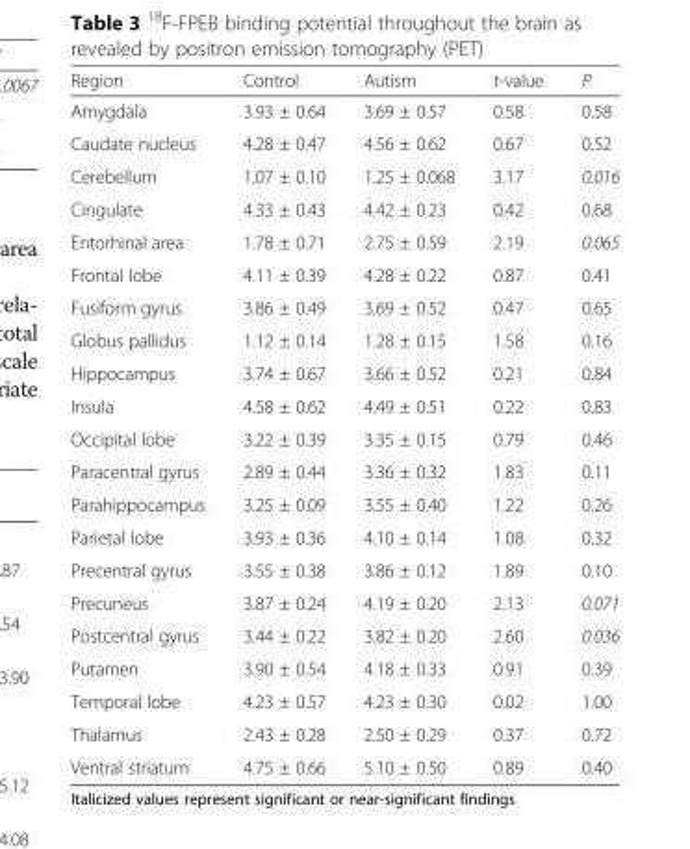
<table><thead><tr><td>Region</td><td>Control</td><td>Autism</td><td>t-value</td><td>P</td></tr></thead><tbody><tr><td>Amygdala</td><td>3.93 ± 0.64</td><td>3.69 ± 0.57</td><td>0.58</td><td>0.58</td></tr><tr><td>Caudate nucleus</td><td>4.28 ± 0.47</td><td>4.56 ± 0.62</td><td>0.67</td><td>0.52</td></tr><tr><td>Cerebellum</td><td>1.07 ± 0.10</td><td>1.25 ± 0.068</td><td>3.17</td><td>0.016</td></tr><tr><td>Cingulate</td><td>4.33 ± 0.43</td><td>4.42 ± 0.23</td><td>0.42</td><td>0.68</td></tr><tr><td>Entorhinal area</td><td>1.78 ± 0.71</td><td>2.75 ± 0.59</td><td>2.19</td><td>0.065</td></tr><tr><td>Frontal lobe</td><td>4.11 ± 0.39</td><td>4.28 ± 0.22</td><td>0.87</td><td>0.41</td></tr><tr><td>Fusiform gyrus</td><td>3.86 ± 0.49</td><td>3.69 ± 0.52</td><td>0.47</td><td>0.65</td></tr><tr><td>Globus pallidus</td><td>1.12 ± 0.14</td><td>1.28 ± 0.15</td><td>1.58</td><td>0.16</td></tr><tr><td>Hippocampus</td><td>3.74 ± 0.67</td><td>3.66 ± 0.52</td><td>0.21</td><td>0.84</td></tr><tr><td>Insula</td><td>4.58 ± 0.62</td><td>4.49 ± 0.51</td><td>0.22</td><td>0.83</td></tr><tr><td>Occipital lobe</td><td>3.22 ± 0.39</td><td>3.35 ± 0.15</td><td>0.79</td><td>0.46</td></tr><tr><td>Paracentral gyrus</td><td>2.89 ± 0.44</td><td>3.36 ± 0.32</td><td>1.83</td><td>0.11</td></tr><tr><td>Parahippocampus</td><td>3.25 ± 0.09</td><td>3.55 ± 0.40</td><td>1.22</td><td>0.26</td></tr><tr><td>Parietal lobe</td><td>3.93 ± 0.36</td><td>4.10 ± 0.14</td><td>1.08</td><td>0.32</td></tr><tr><td>Precentral gyrus</td><td>3.55 ± 0.38</td><td>3.86 ± 0.12</td><td>1.89</td><td>0.10</td></tr><tr><td>Precuneus</td><td>3.87 ± 0.24</td><td>4.19 ± 0.20</td><td>2.13</td><td>0.071</td></tr><tr><td>Postcentral gyrus</td><td>3.44 ± 0.22</td><td>3.82 ± 0.20</td><td>2.60</td><td>0.036</td></tr><tr><td>Putamen</td><td>3.90 ± 0.54</td><td>4.18 ± 0.33</td><td>0.91</td><td>0.39</td></tr><tr><td>Temporal lobe</td><td>4.23 ± 0.57</td><td>4.23 ± 0.30</td><td>0.02</td><td>1.00</td></tr><tr><td>Thalamus</td><td>2.43 ± 0.28</td><td>2.50 ± 0.29</td><td>0.37</td><td>0.72</td></tr><tr><td>Ventral striatum</td><td>4.75 ± 0.66</td><td>5.10 ± 0.50</td><td>0.89</td><td>0.40</td></tr></tbody></table>